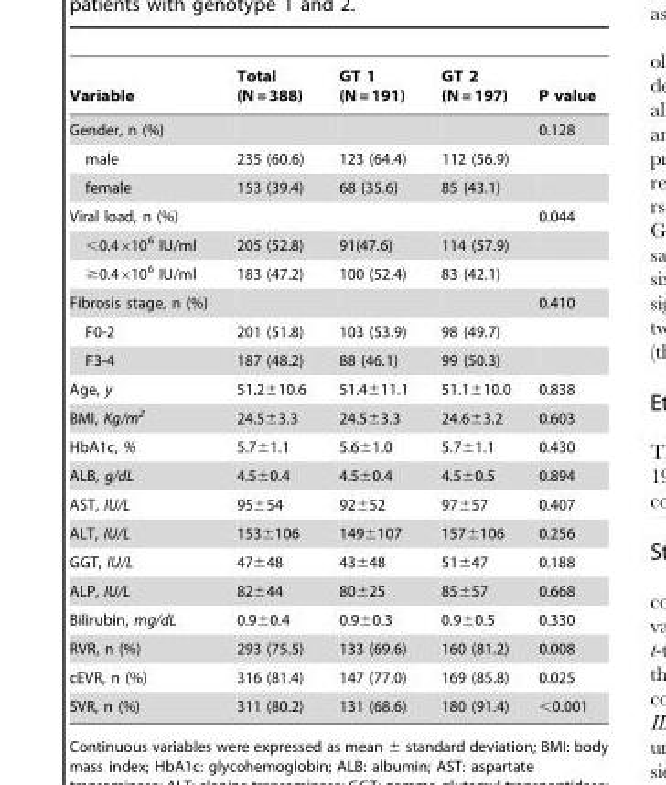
<table><thead><tr><td>Variable</td><td>Total (N = 388)</td><td>GT 1 (N = 191)</td><td>GT 2 (N = 197)</td><td>P value</td></tr></thead><tbody><tr><td>Gender, n (%)</td><td></td><td></td><td></td><td>0.128</td></tr><tr><td>male</td><td>235 (60.6)</td><td>123 (64.4)</td><td>112 (56.9)</td><td></td></tr><tr><td>female</td><td>153 (39.4)</td><td>68 (35.6)</td><td>85 (43.1)</td><td></td></tr><tr><td>Viral load, n (%)</td><td></td><td></td><td></td><td>0.044</td></tr><tr><td>&lt;0.4×10<sup>6</sup> IU/ml</td><td>205 (52.8)</td><td>91(47.6)</td><td>114 (57.9)</td><td></td></tr><tr><td>≥0.4×10<sup>6</sup> IU/ml</td><td>183 (47.2)</td><td>100 (52.4)</td><td>83 (42.1)</td><td></td></tr><tr><td>Fibrosis stage, n (%)</td><td></td><td></td><td></td><td>0.410</td></tr><tr><td>F0-2</td><td>201 (51.8)</td><td>103 (53.9)</td><td>98 (49.7)</td><td></td></tr><tr><td>F3-4</td><td>187 (48.2)</td><td>88 (46.1)</td><td>99 (50.3)</td><td></td></tr><tr><td>Age, y</td><td>51.2±10.6</td><td>51.4±11.1</td><td>51.1±10.0</td><td>0.838</td></tr><tr><td>BMI, Kg/m<sup>2</sup></td><td>24.5±3.3</td><td>24.5±3.3</td><td>24.6±3.2</td><td>0.603</td></tr><tr><td>HbA1c, %</td><td>5.7±1.1</td><td>5.6±1.0</td><td>5.7±1.1</td><td>0.430</td></tr><tr><td>ALB, g/dL</td><td>4.5±0.4</td><td>4.5±0.4</td><td>4.5±0.5</td><td>0.894</td></tr><tr><td>AST, IU/L</td><td>95±54</td><td>92±52</td><td>97±57</td><td>0.407</td></tr><tr><td>ALT, IU/L</td><td>153±106</td><td>149±107</td><td>157±106</td><td>0.256</td></tr><tr><td>GGT, IU/L</td><td>47±48</td><td>43±48</td><td>51±47</td><td>0.188</td></tr><tr><td>ALP, IU/L</td><td>82±44</td><td>80±25</td><td>85±57</td><td>0.668</td></tr><tr><td>Bilirubin, mg/dL</td><td>0.9±0.4</td><td>0.9±0.3</td><td>0.9±0.5</td><td>0.330</td></tr><tr><td>RVR, n (%)</td><td>293 (75.5)</td><td>133 (69.6)</td><td>160 (81.2)</td><td>0.008</td></tr><tr><td>cEVR, n (%)</td><td>316 (81.4)</td><td>147 (77.0)</td><td>169 (85.8)</td><td>0.025</td></tr><tr><td>SVR, n (%)</td><td>311 (80.2)</td><td>131 (68.6)</td><td>180 (91.4)</td><td>&lt;0.001</td></tr></tbody></table>